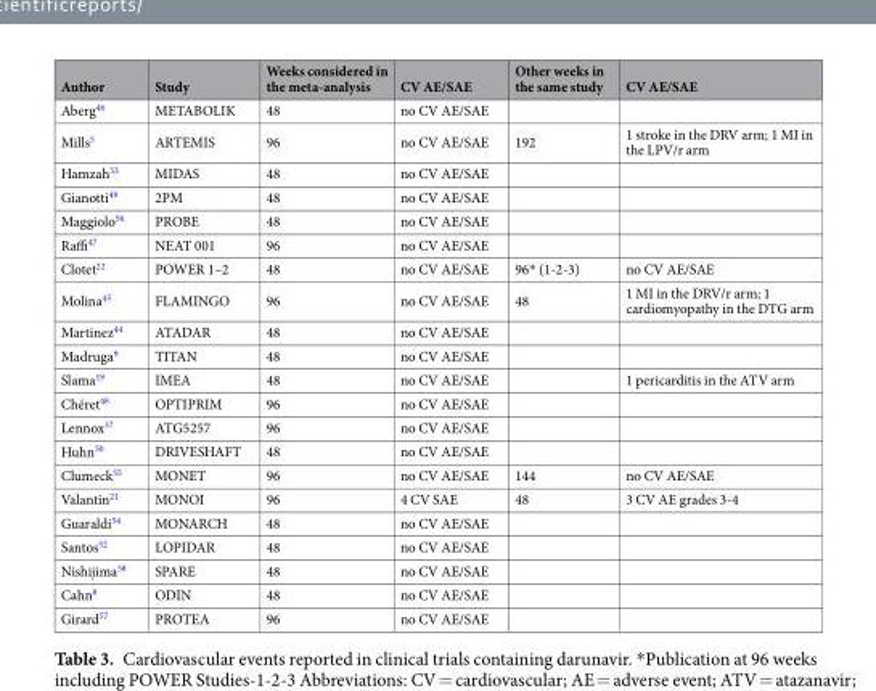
<table><thead><tr><td>Author</td><td>Study</td><td>Weeks considered in the meta-analysis</td><td>CV AE/SAE</td><td>Other weeks in the same study</td><td>CV AE/SAE</td></tr></thead><tbody><tr><td>Aberg<sup>46</sup></td><td>METABOLIK</td><td>48</td><td>no CV AE/SAE</td><td></td><td></td></tr><tr><td>Mills<sup>5</sup></td><td>ARTEMIS</td><td>96</td><td>no CV AE/SAE</td><td>192</td><td>1 stroke in the DRV arm; 1 MI in the LPV/r arm</td></tr><tr><td>Hamzah<sup>53</sup></td><td>MIDAS</td><td>48</td><td>no CV AE/SAE</td><td></td><td></td></tr><tr><td>Gianotti<sup>49</sup></td><td>2PM</td><td>48</td><td>no CV AE/SAE</td><td></td><td></td></tr><tr><td>Maggiolo<sup>56</sup></td><td>PROBE</td><td>48</td><td>no CV AE/SAE</td><td></td><td></td></tr><tr><td>Raffi<sup>47</sup></td><td>NEAT 001</td><td>96</td><td>no CV AE/SAE</td><td></td><td></td></tr><tr><td>Clotet<sup>22</sup></td><td>POWER 1–2</td><td>48</td><td>no CV AE/SAE</td><td>96* (1-2-3)</td><td>no CV AE/SAE</td></tr><tr><td>Molina<sup>45</sup></td><td>FLAMINGO</td><td>96</td><td>no CV AE/SAE</td><td>48</td><td>1 MI in the DRV/r arm; 1 cardiomyopathy in the DTG arm</td></tr><tr><td>Martinez<sup>44</sup></td><td>ATADAR</td><td>48</td><td>no CV AE/SAE</td><td></td><td></td></tr><tr><td>Madruga<sup>9</sup></td><td>TITAN</td><td>48</td><td>no CV AE/SAE</td><td></td><td></td></tr><tr><td>Slama<sup>19</sup></td><td>IMEA</td><td>48</td><td>no CV AE/SAE</td><td></td><td>1 pericarditis in the ATV arm</td></tr><tr><td>Chéret<sup>48</sup></td><td>OPTIPRIM</td><td>96</td><td>no CV AE/SAE</td><td></td><td></td></tr><tr><td>Lennox<sup>37</sup></td><td>ATG5257</td><td>96</td><td>no CV AE/SAE</td><td></td><td></td></tr><tr><td>Huhn<sup>50</sup></td><td>DRIVESHAFT</td><td>48</td><td>no CV AE/SAE</td><td></td><td></td></tr><tr><td>Clumeck<sup>55</sup></td><td>MONET</td><td>96</td><td>no CV AE/SAE</td><td>144</td><td>no CV AE/SAE</td></tr><tr><td>Valantin<sup>21</sup></td><td>MONOI</td><td>96</td><td>4 CV SAE</td><td>48</td><td>3 CV AE grades 3-4</td></tr><tr><td>Guaraldi<sup>54</sup></td><td>MONARCH</td><td>48</td><td>no CV AE/SAE</td><td></td><td></td></tr><tr><td>Santos<sup>52</sup></td><td>LOPIDAR</td><td>48</td><td>no CV AE/SAE</td><td></td><td></td></tr><tr><td>Nishijima<sup>58</sup></td><td>SPARE</td><td>48</td><td>no CV AE/SAE</td><td></td><td></td></tr><tr><td>Cahn<sup>8</sup></td><td>ODIN</td><td>48</td><td>no CV AE/SAE</td><td></td><td></td></tr><tr><td>Girard<sup>57</sup></td><td>PROTEA</td><td>96</td><td>no CV AE/SAE</td><td></td><td></td></tr></tbody></table>